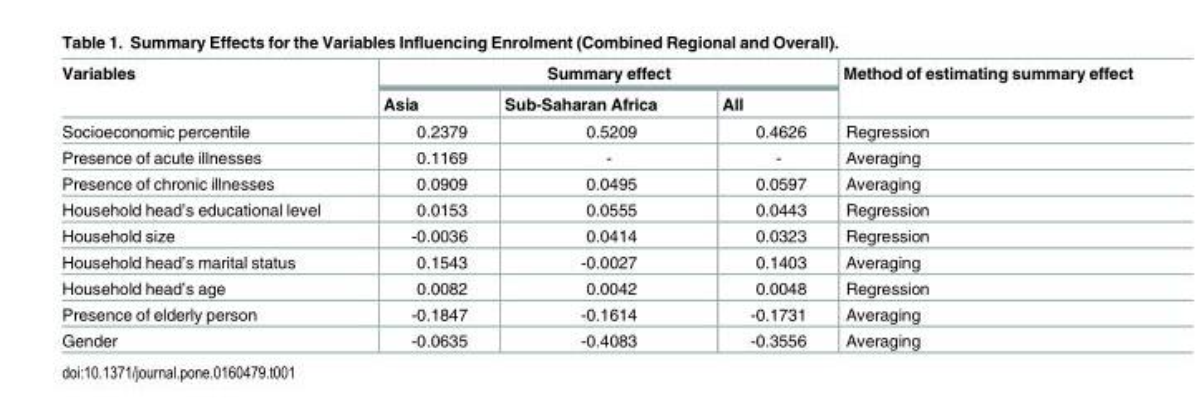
<table><thead><tr><td rowspan="2">Variables</td><td colspan="3">Summary effect</td><td rowspan="2">Method of estimating summary effect</td></tr><tr><td>Asia</td><td>Sub-Saharan Africa</td><td>All</td></tr></thead><tbody><tr><td>Socioeconomic percentile</td><td>0.2379</td><td>0.5209</td><td>0.4626</td><td>Regression</td></tr><tr><td>Presence of acute illnesses</td><td>0.1169</td><td>-</td><td>-</td><td>Averaging</td></tr><tr><td>Presence of chronic illnesses</td><td>0.0909</td><td>0.0495</td><td>0.0597</td><td>Averaging</td></tr><tr><td>Household head’s educational level</td><td>0.0153</td><td>0.0555</td><td>0.0443</td><td>Regression</td></tr><tr><td>Household size</td><td>-0.0036</td><td>0.0414</td><td>0.0323</td><td>Regression</td></tr><tr><td>Household head’s marital status</td><td>0.1543</td><td>-0.0027</td><td>0.1403</td><td>Averaging</td></tr><tr><td>Household head’s age</td><td>0.0082</td><td>0.0042</td><td>0.0048</td><td>Regression</td></tr><tr><td>Presence of elderly person</td><td>-0.1847</td><td>-0.1614</td><td>-0.1731</td><td>Averaging</td></tr><tr><td>Gender</td><td>-0.0635</td><td>-0.4083</td><td>-0.3556</td><td>Averaging</td></tr></tbody></table>